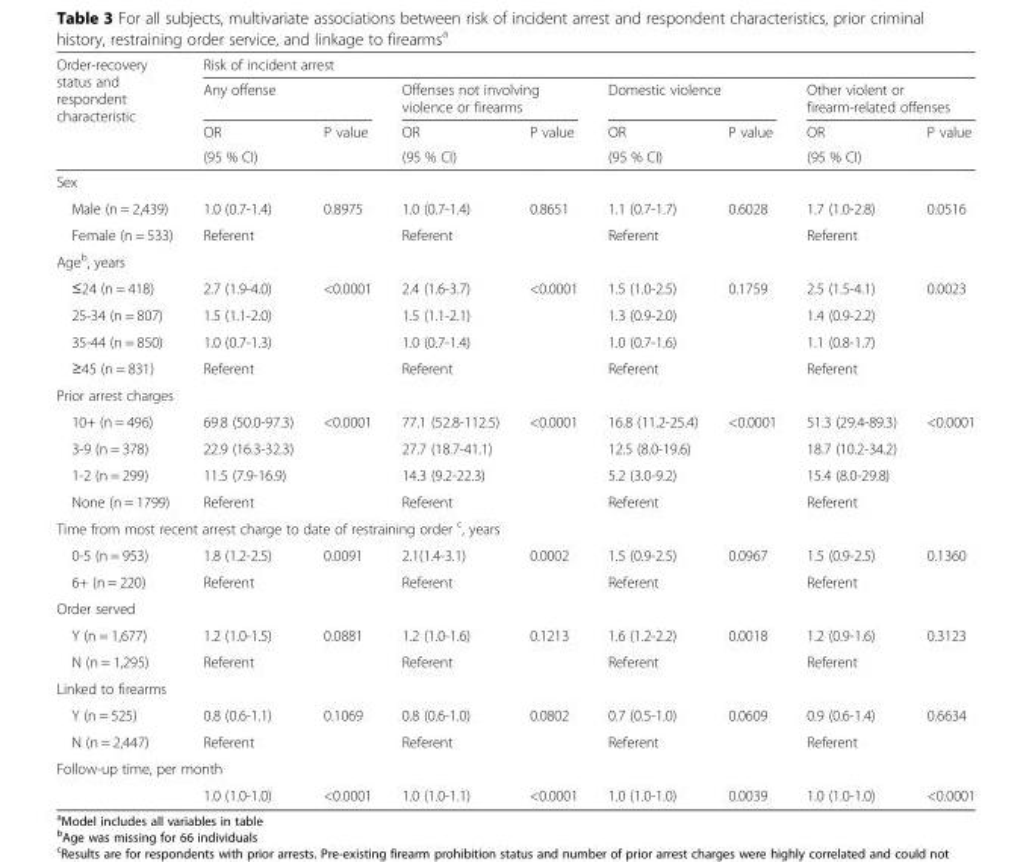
<table><thead><tr><td rowspan="4">Order-recovery status and respondent characteristic</td><td colspan="8">Risk of incident arrest</td></tr><tr><td colspan="2">Any offense</td><td colspan="2">Offenses not involving violence or firearms</td><td colspan="2">Domestic violence</td><td colspan="2">Other violent or firearm-related offenses</td></tr><tr><td rowspan="2">OR (95 % CI)</td><td rowspan="2">P value</td><td rowspan="2">OR (95 % CI)</td><td rowspan="2">P value</td><td rowspan="2">OR (95 % CI)</td><td rowspan="2">P value</td><td rowspan="2">OR (95 % CI)</td><td rowspan="2">P value</td></tr><tr></tr></thead><tbody><tr><td colspan="9">Sex</td></tr><tr><td>Male (n = 2,439)</td><td>1.0 (0.7-1.4)</td><td>0.8975</td><td>1.0 (0.7-1.4)</td><td>0.8651</td><td>1.1 (0.7-1.7)</td><td>0.6028</td><td>1.7 (1.0-2.8)</td><td>0.0516</td></tr><tr><td>Female (n = 533)</td><td>Referent</td><td></td><td>Referent</td><td></td><td>Referent</td><td></td><td>Referent</td><td></td></tr><tr><td colspan="9">Age<sup>b</sup>, years</td></tr><tr><td>≤24 (n = 418)</td><td>2.7 (1.9-4.0)</td><td>&lt;0.0001</td><td>2.4 (1.6-3.7)</td><td>&lt;0.0001</td><td>1.5 (1.0-2.5)</td><td>0.1759</td><td>2.5 (1.5-4.1)</td><td>0.0023</td></tr><tr><td>25-34 (n = 807)</td><td>1.5 (1.1-2.0)</td><td></td><td>1.5 (1.1-2.1)</td><td></td><td>1.3 (0.9-2.0)</td><td></td><td>1.4 (0.9-2.2)</td><td></td></tr><tr><td>35-44 (n = 850)</td><td>1.0 (0.7-1.3)</td><td></td><td>1.0 (0.7-1.4)</td><td></td><td>1.0 (0.7-1.6)</td><td></td><td>1.1 (0.8-1.7)</td><td></td></tr><tr><td>≥45 (n = 831)</td><td>Referent</td><td></td><td>Referent</td><td></td><td>Referent</td><td></td><td>Referent</td><td></td></tr><tr><td colspan="9">Prior arrest charges</td></tr><tr><td>10+ (n = 496)</td><td>69.8 (50.0-97.3)</td><td>&lt;0.0001</td><td>77.1 (52.8-112.5)</td><td>&lt;0.0001</td><td>16.8 (11.2-25.4)</td><td>&lt;0.0001</td><td>51.3 (29.4-89.3)</td><td>&lt;0.0001</td></tr><tr><td>3-9 (n = 378)</td><td>22.9 (16.3-32.3)</td><td></td><td>27.7 (18.7-41.1)</td><td></td><td>12.5 (8.0-19.6)</td><td></td><td>18.7 (10.2-34.2)</td><td></td></tr><tr><td>1-2 (n = 299)</td><td>11.5 (7.9-16.9)</td><td></td><td>14.3 (9.2-22.3)</td><td></td><td>5.2 (3.0-9.2)</td><td></td><td>15.4 (8.0-29.8)</td><td></td></tr><tr><td>None (n = 1799)</td><td>Referent</td><td></td><td>Referent</td><td></td><td>Referent</td><td></td><td>Referent</td><td></td></tr><tr><td colspan="9">Time from most recent arrest charge to date of restraining order <sup>c</sup>, years</td></tr><tr><td>0-5 (n = 953)</td><td>1.8 (1.2-2.5)</td><td>0.0091</td><td>2.1(1.4-3.1)</td><td>0.0002</td><td>1.5 (0.9-2.5)</td><td>0.0967</td><td>1.5 (0.9-2.5)</td><td>0.1360</td></tr><tr><td>6+ (n = 220)</td><td>Referent</td><td></td><td>Referent</td><td></td><td>Referent</td><td></td><td>Referent</td><td></td></tr><tr><td colspan="9">Order served</td></tr><tr><td>Y (n = 1,677)</td><td>1.2 (1.0-1.5)</td><td>0.0881</td><td>1.2 (1.0-1.6)</td><td>0.1213</td><td>1.6 (1.2-2.2)</td><td>0.0018</td><td>1.2 (0.9-1.6)</td><td>0.3123</td></tr><tr><td>N (n = 1,295)</td><td>Referent</td><td></td><td>Referent</td><td></td><td>Referent</td><td></td><td>Referent</td><td></td></tr><tr><td colspan="9">Linked to firearms</td></tr><tr><td>Y (n = 525)</td><td>0.8 (0.6-1.1)</td><td>0.1069</td><td>0.8 (0.6-1.0)</td><td>0.0802</td><td>0.7 (0.5-1.0)</td><td>0.0609</td><td>0.9 (0.6-1.4)</td><td>0.6634</td></tr><tr><td>N (n = 2,447)</td><td>Referent</td><td></td><td>Referent</td><td></td><td>Referent</td><td></td><td>Referent</td><td></td></tr><tr><td colspan="9">Follow-up time, per month</td></tr><tr><td></td><td>1.0 (1.0-1.0)</td><td>&lt;0.0001</td><td>1.0 (1.0-1.1)</td><td>&lt;0.0001</td><td>1.0 (1.0-1.0)</td><td>0.0039</td><td>1.0 (1.0-1.0)</td><td>&lt;0.0001</td></tr></tbody></table>